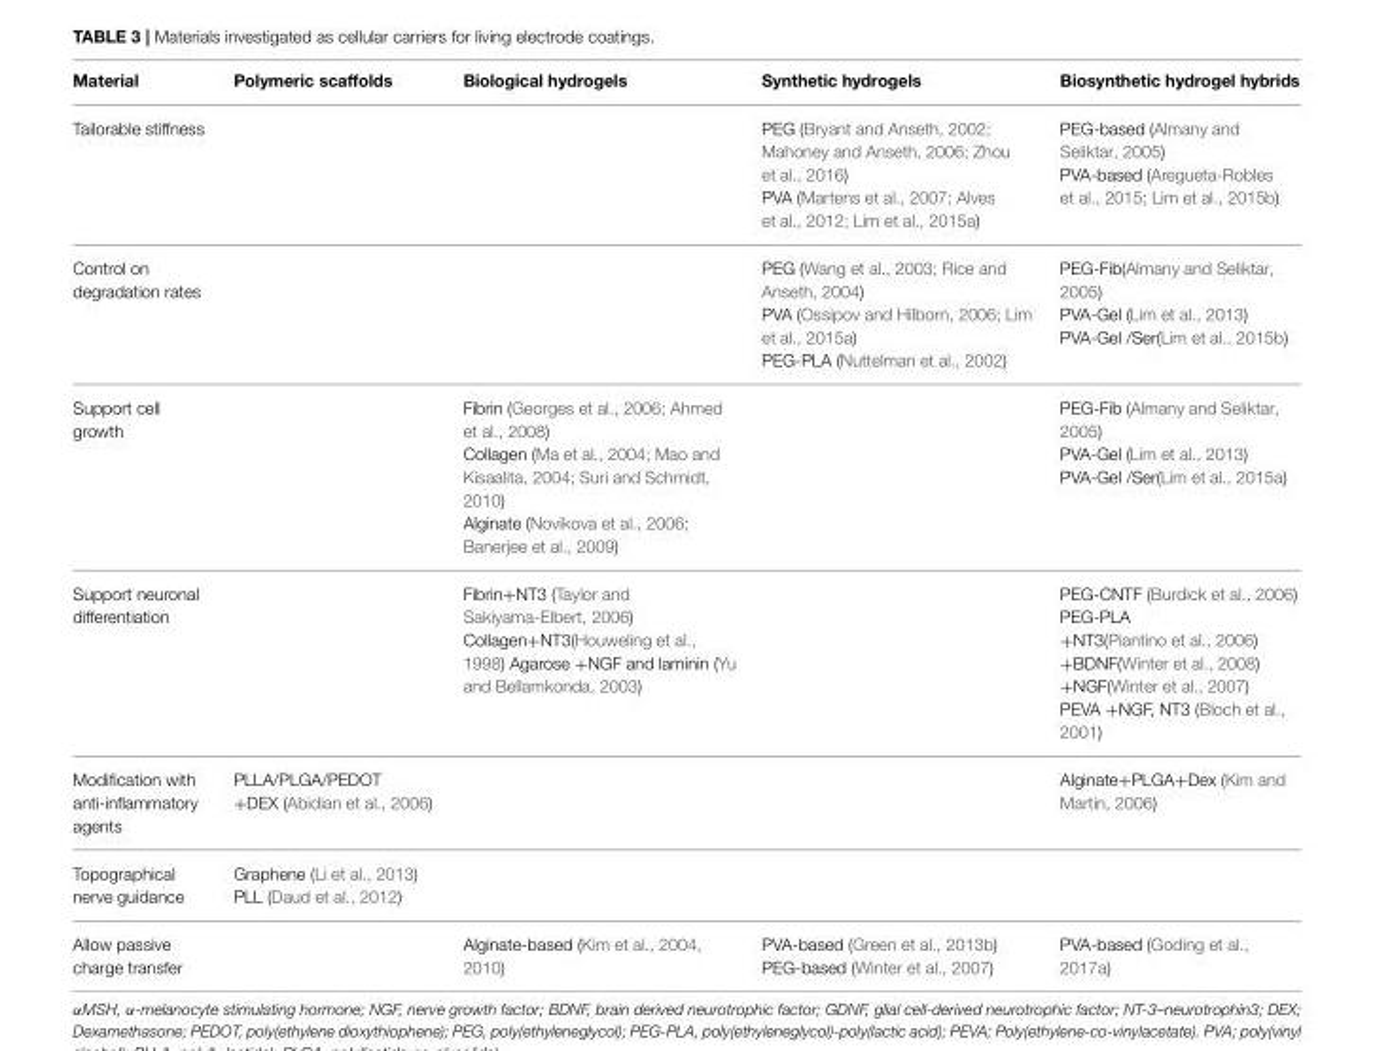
<table><thead><tr><td>Material</td><td>Polymeric scaffolds</td><td>Biological hydrogels</td><td>Synthetic hydrogels</td><td>Biosynthetic hydrogel hybrids</td></tr></thead><tbody><tr><td>Tailorable stiffness</td><td></td><td></td><td>PEG (Bryant and Anseth, 2002; Mahoney and Anseth, 2006; Zhou et al., 2016) PVA (Martens et al., 2007; Alves et al., 2012; Lim et al., 2015a)</td><td>PEG-based (Almany and Seliktar, 2005) PVA-based (Aregueta-Robles et al., 2015; Lim et al., 2015b)</td></tr><tr><td>Control on degradation rates</td><td></td><td></td><td>PEG (Wang et al., 2003; Rice and Anseth, 2004) PVA (Ossipov and Hilborn, 2006; Lim et al., 2015a) PEG-PLA (Nuttelman et al., 2002)</td><td>PEG-Fib(Almany and Seliktar, 2005) PVA-Gel (Lim et al., 2013) PVA-Gel /Ser(Lim et al., 2015b)</td></tr><tr><td>Support cell growth</td><td></td><td>Fibrin (Georges et al., 2006; Ahmed et al., 2008) Collagen (Ma et al., 2004; Mao and Kisaalita, 2004; Suri and Schmidt, 2010) Alginate (Novikova et al., 2006; Banerjee et al., 2009)</td><td></td><td>PEG-Fib (Almany and Seliktar, 2005) PVA-Gel (Lim et al., 2013) PVA-Gel /Ser(Lim et al., 2015a)</td></tr><tr><td>Support neuronal differentiation</td><td></td><td>Fibrin+NT3 (Taylor and Sakiyama-Elbert, 2006) Collagen+NT3(Houweling et al., 1998) Agarose +NGF and laminin (Yu and Bellamkonda, 2003)</td><td></td><td>PEG-CNTF (Burdick et al., 2006) PEG-PLA +NT3(Piantino et al., 2006) +BDNF(Winter et al., 2008) +NGF(Winter et al., 2007) PEVA +NGF, NT3 (Bloch et al., 2001)</td></tr><tr><td>Modification with anti-inflammatory agents</td><td>PLLA/PLGA/PEDOT +DEX (Abidian et al., 2006)</td><td></td><td></td><td>Alginate+PLGA+Dex (Kim and Martin, 2006)</td></tr><tr><td>Topographical nerve guidance</td><td>Graphene (Li et al., 2013) PLL (Daud et al., 2012)</td><td></td><td></td><td></td></tr><tr><td>Allow passive charge transfer</td><td></td><td>Alginate-based (Kim et al., 2004, 2010)</td><td>PVA-based (Green et al., 2013b) PEG-based (Winter et al., 2007)</td><td>PVA-based (Goding et al., 2017a)</td></tr></tbody></table>